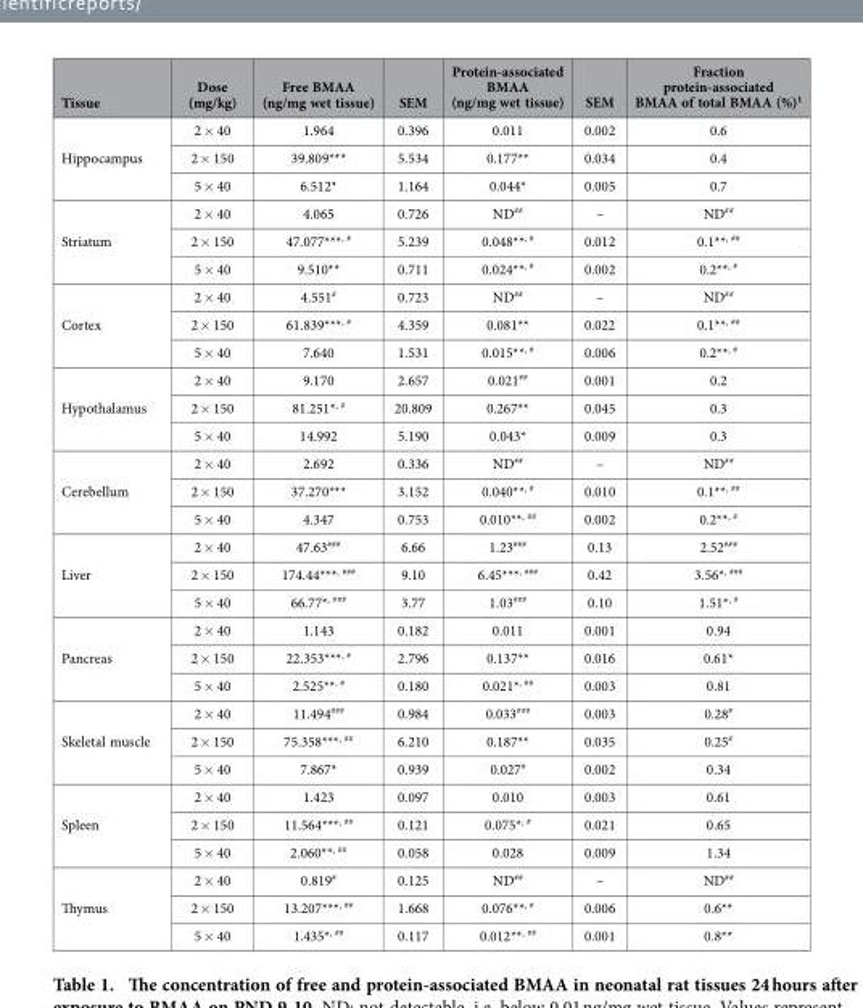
<table><thead><tr><td>Tissue</td><td>Dose (mg/kg)</td><td>Free BMAA (ng/mg wet tissue)</td><td>SEM</td><td>Protein-associated BMAA (ng/mg wet tissue)</td><td>SEM</td><td>Fraction protein-associated BMAA of total BMAA (%)<sup>1</sup></td></tr></thead><tbody><tr><td rowspan="3">Hippocampus</td><td>2 × 40</td><td>1.964</td><td>0.396</td><td>0.011</td><td>0.002</td><td>0.6</td></tr><tr><td>2 × 150</td><td>39.809***</td><td>5.534</td><td>0.177**</td><td>0.034</td><td>0.4</td></tr><tr><td>5 × 40</td><td>6.512*</td><td>1.164</td><td>0.044*</td><td>0.005</td><td>0.7</td></tr><tr><td rowspan="3">Striatum</td><td>2 × 40</td><td>4.065</td><td>0.726</td><td>ND<sup>##</sup></td><td>–</td><td>ND<sup>##</sup></td></tr><tr><td>2 × 150</td><td>47.077***<sup>, #</sup></td><td>5.239</td><td>0.048**<sup>, #</sup></td><td>0.012</td><td>0.1**<sup>, ##</sup></td></tr><tr><td>5 × 40</td><td>9.510**</td><td>0.711</td><td>0.024**<sup>, #</sup></td><td>0.002</td><td>0.2**<sup>, #</sup></td></tr><tr><td rowspan="3">Cortex</td><td>2 × 40</td><td>4.551<sup>#</sup></td><td>0.723</td><td>ND<sup>##</sup></td><td>–</td><td>ND<sup>##</sup></td></tr><tr><td>2 × 150</td><td>61.839***<sup>, #</sup></td><td>4.359</td><td>0.081**</td><td>0.022</td><td>0.1**<sup>, ##</sup></td></tr><tr><td>5 × 40</td><td>7.640</td><td>1.531</td><td>0.015**<sup>, #</sup></td><td>0.006</td><td>0.2**<sup>, #</sup></td></tr><tr><td rowspan="3">Hypothalamus</td><td>2 × 40</td><td>9.170</td><td>2.657</td><td>0.021<sup>##</sup></td><td>0.001</td><td>0.2</td></tr><tr><td>2 × 150</td><td>81.251*<sup>, #</sup></td><td>20.809</td><td>0.267**</td><td>0.045</td><td>0.3</td></tr><tr><td>5 × 40</td><td>14.992</td><td>5.190</td><td>0.043*</td><td>0.009</td><td>0.3</td></tr><tr><td rowspan="3">Cerebellum</td><td>2 × 40</td><td>2.692</td><td>0.336</td><td>ND<sup>##</sup></td><td>–</td><td>ND<sup>##</sup></td></tr><tr><td>2 × 150</td><td>37.270***</td><td>3.152</td><td>0.040**<sup>, #</sup></td><td>0.010</td><td>0.1**<sup>, ##</sup></td></tr><tr><td>5 × 40</td><td>4.347</td><td>0.753</td><td>0.010**<sup>, ##</sup></td><td>0.002</td><td>0.2**<sup>, #</sup></td></tr><tr><td rowspan="3">Liver</td><td>2 × 40</td><td>47.63<sup>###</sup></td><td>6.66</td><td>1.23<sup>###</sup></td><td>0.13</td><td>2.52<sup>###</sup></td></tr><tr><td>2 × 150</td><td>174.44***<sup>, ###</sup></td><td>9.10</td><td>6.45***<sup>, ###</sup></td><td>0.42</td><td>3.56*<sup>, ###</sup></td></tr><tr><td>5 × 40</td><td>66.77*<sup>, ###</sup></td><td>3.77</td><td>1.03<sup>###</sup></td><td>0.10</td><td>1.51*<sup>, #</sup></td></tr><tr><td rowspan="3">Pancreas</td><td>2 × 40</td><td>1.143</td><td>0.182</td><td>0.011</td><td>0.001</td><td>0.94</td></tr><tr><td>2 × 150</td><td>22.353***<sup>, #</sup></td><td>2.796</td><td>0.137**</td><td>0.016</td><td>0.61*</td></tr><tr><td>5 × 40</td><td>2.525**<sup>, #</sup></td><td>0.180</td><td>0.021*<sup>, ##</sup></td><td>0.003</td><td>0.81</td></tr><tr><td rowspan="3">Skeletal muscle</td><td>2 × 40</td><td>11.494<sup>###</sup></td><td>0.984</td><td>0.033<sup>###</sup></td><td>0.003</td><td>0.28<sup>#</sup></td></tr><tr><td>2 × 150</td><td>75.358***<sup>, ##</sup></td><td>6.210</td><td>0.187**</td><td>0.035</td><td>0.25<sup>#</sup></td></tr><tr><td>5 × 40</td><td>7.867*</td><td>0.939</td><td>0.027<sup>#</sup></td><td>0.002</td><td>0.34</td></tr><tr><td rowspan="3">Spleen</td><td>2 × 40</td><td>1.423</td><td>0.097</td><td>0.010</td><td>0.003</td><td>0.61</td></tr><tr><td>2 × 150</td><td>11.564***<sup>, ##</sup></td><td>0.121</td><td>0.075*<sup>, #</sup></td><td>0.021</td><td>0.65</td></tr><tr><td>5 × 40</td><td>2.060**<sup>, ##</sup></td><td>0.058</td><td>0.028</td><td>0.009</td><td>1.34</td></tr><tr><td rowspan="3">Thymus</td><td>2 × 40</td><td>0.819<sup>#</sup></td><td>0.125</td><td>ND<sup>##</sup></td><td>–</td><td>ND<sup>##</sup></td></tr><tr><td>2 × 150</td><td>13.207***<sup>, ##</sup></td><td>1.668</td><td>0.076**<sup>, #</sup></td><td>0.006</td><td>0.6**</td></tr><tr><td>5 × 40</td><td>1.435*<sup>, ##</sup></td><td>0.117</td><td>0.012**<sup>, ##</sup></td><td>0.001</td><td>0.8**</td></tr></tbody></table>